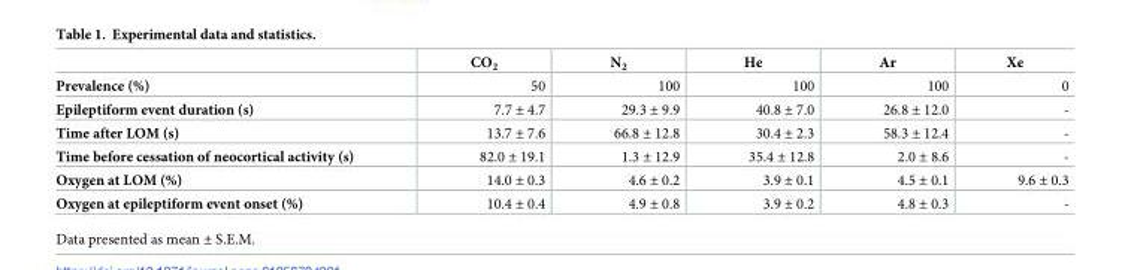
<table><thead><tr><td></td><td>CO<sub>2</sub></td><td>N<sub>2</sub></td><td>He</td><td>Ar</td><td>Xe</td></tr></thead><tbody><tr><td>Prevalence (%)</td><td>50</td><td>100</td><td>100</td><td>100</td><td>0</td></tr><tr><td>Epileptiform event duration (s)</td><td>7.7 ± 4.7</td><td>29.3 ± 9.9</td><td>40.8 ± 7.0</td><td>26.8 ± 12.0</td><td>-</td></tr><tr><td>Time after LOM (s)</td><td>13.7 ± 7.6</td><td>66.8 ± 12.8</td><td>30.4 ± 2.3</td><td>58.3 ± 12.4</td><td>-</td></tr><tr><td>Time before cessation of neocortical activity (s)</td><td>82.0 ± 19.1</td><td>1.3 ± 12.9</td><td>35.4 ± 12.8</td><td>2.0 ± 8.6</td><td>-</td></tr><tr><td>Oxygen at LOM (%)</td><td>14.0 ± 0.3</td><td>4.6 ± 0.2</td><td>3.9 ± 0.1</td><td>4.5 ± 0.1</td><td>9.6 ± 0.3</td></tr><tr><td>Oxygen at epileptiform event onset (%)</td><td>10.4 ± 0.4</td><td>4.9 ± 0.8</td><td>3.9 ± 0.2</td><td>4.8 ± 0.3</td><td>-</td></tr></tbody></table>